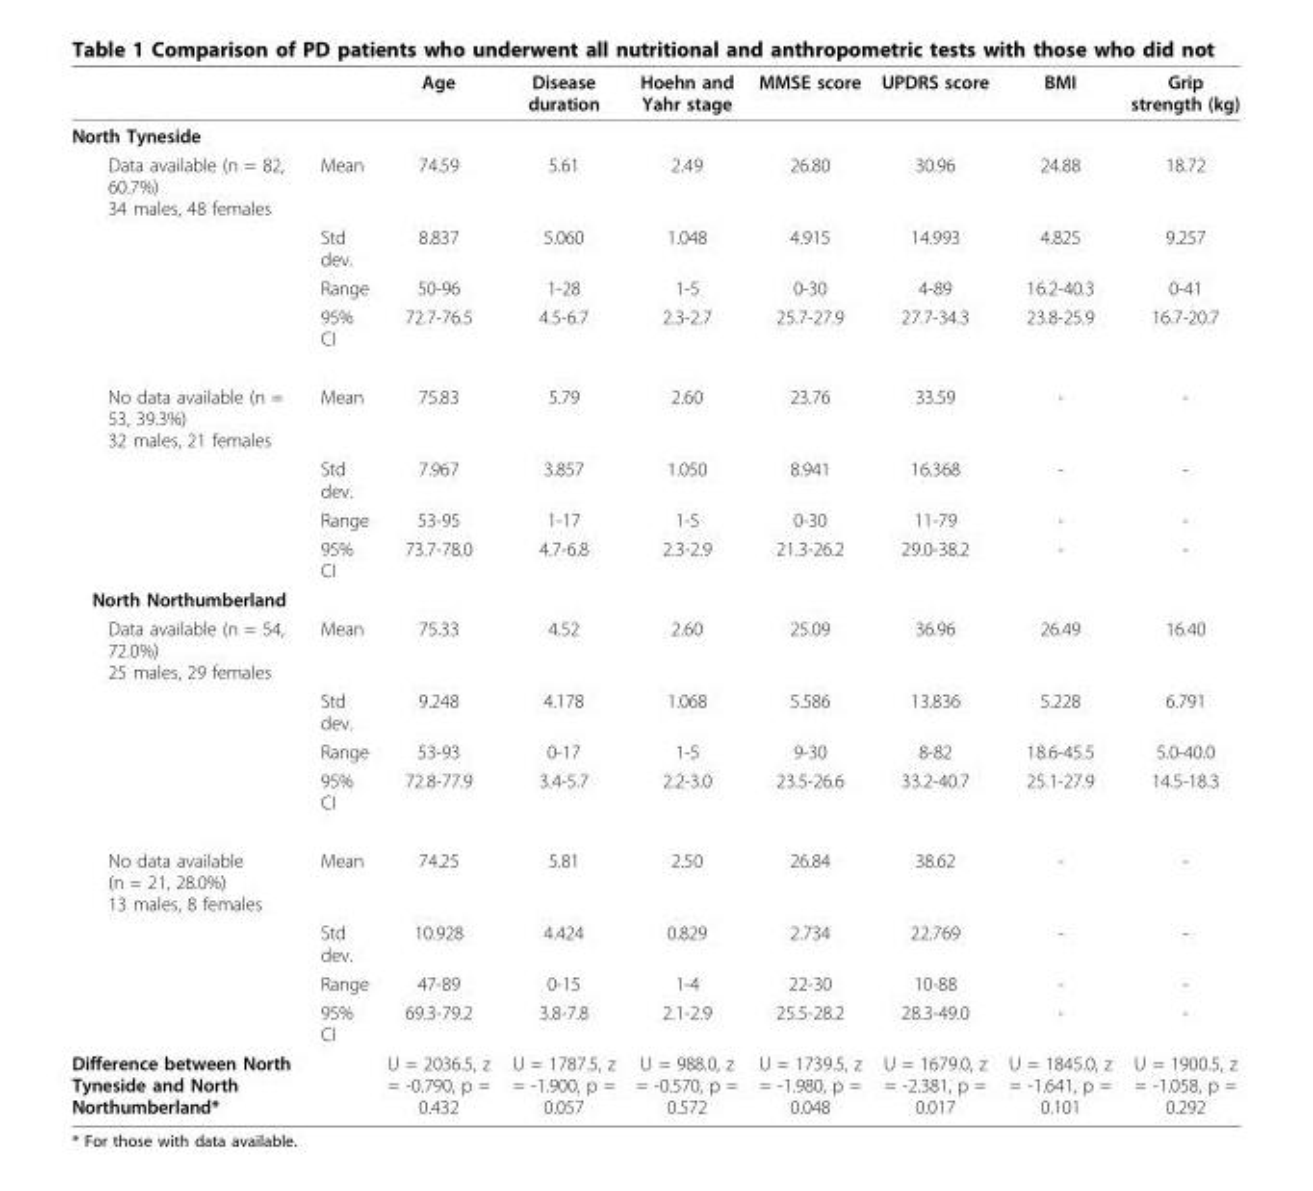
<table><thead><tr><td></td><td></td><td>Age</td><td>Disease duration</td><td>Hoehn and Yahr stage</td><td>MMSE score</td><td>UPDRS score</td><td>BMI</td><td>Grip strength (kg)</td></tr></thead><tbody><tr><td colspan="9">North Tyneside</td></tr><tr><td rowspan="4">Data available (n = 82, 60.7%) 34 males, 48 females</td><td>Mean</td><td>74.59</td><td>5.61</td><td>2.49</td><td>26.80</td><td>30.96</td><td>24.88</td><td>18.72</td></tr><tr><td>Std dev.</td><td>8.837</td><td>5.060</td><td>1.048</td><td>4.915</td><td>14.993</td><td>4.825</td><td>9.257</td></tr><tr><td>Range</td><td>50-96</td><td>1-28</td><td>1-5</td><td>0-30</td><td>4-89</td><td>16.2-40.3</td><td>0-41</td></tr><tr><td>95% CI</td><td>72.7-76.5</td><td>4.5-6.7</td><td>2.3-2.7</td><td>25.7-27.9</td><td>27.7-34.3</td><td>23.8-25.9</td><td>16.7-20.7</td></tr><tr><td rowspan="4">No data available (n = 53, 39.3%) 32 males, 21 females</td><td>Mean</td><td>75.83</td><td>5.79</td><td>2.60</td><td>23.76</td><td>33.59</td><td>-</td><td>-</td></tr><tr><td>Std dev.</td><td>7.967</td><td>3.857</td><td>1.050</td><td>8.941</td><td>16.368</td><td>-</td><td>-</td></tr><tr><td>Range</td><td>53-95</td><td>1-17</td><td>1-5</td><td>0-30</td><td>11-79</td><td>-</td><td>-</td></tr><tr><td>95% CI</td><td>73.7-78.0</td><td>4.7-6.8</td><td>2.3-2.9</td><td>21.3-26.2</td><td>29.0-38.2</td><td>-</td><td>-</td></tr><tr><td colspan="9">North Northumberland</td></tr><tr><td rowspan="4">Data available (n = 54, 72.0%) 25 males, 29 females</td><td>Mean</td><td>75.33</td><td>4.52</td><td>2.60</td><td>25.09</td><td>36.96</td><td>26.49</td><td>16.40</td></tr><tr><td>Std dev.</td><td>9.248</td><td>4.178</td><td>1.068</td><td>5.586</td><td>13.836</td><td>5.228</td><td>6.791</td></tr><tr><td>Range</td><td>53-93</td><td>0-17</td><td>1-5</td><td>9-30</td><td>8-82</td><td>18.6-45.5</td><td>5.0-40.0</td></tr><tr><td>95% CI</td><td>72.8-77.9</td><td>3.4-5.7</td><td>2.2-3.0</td><td>23.5-26.6</td><td>33.2-40.7</td><td>25.1-27.9</td><td>14.5-18.3</td></tr><tr><td rowspan="4">No data available (n = 21, 28.0%) 13 males, 8 females</td><td>Mean</td><td>74.25</td><td>5.81</td><td>2.50</td><td>26.84</td><td>38.62</td><td>-</td><td>-</td></tr><tr><td>Std dev.</td><td>10.928</td><td>4.424</td><td>0.829</td><td>2.734</td><td>22.769</td><td>-</td><td>-</td></tr><tr><td>Range</td><td>47-89</td><td>0-15</td><td>1-4</td><td>22-30</td><td>10-88</td><td>-</td><td>-</td></tr><tr><td>95% CI</td><td>69.3-79.2</td><td>3.8-7.8</td><td>2.1-2.9</td><td>25.5-28.2</td><td>28.3-49.0</td><td>-</td><td>-</td></tr><tr><td>Difference between North Tyneside and North Northumberland*</td><td></td><td>U = 2036.5, z = -0.790, p = 0.432</td><td>U = 1787.5, z = -1.900, p = 0.057</td><td>U = 988.0, z = -0.570, p = 0.572</td><td>U = 1739.5, z = -1.980, p = 0.048</td><td>U = 1679.0, z = -2.381, p = 0.017</td><td>U = 1845.0, z = -1.641, p = 0.101</td><td>U = 1900.5, z = -1.058, p = 0.292</td></tr></tbody></table>